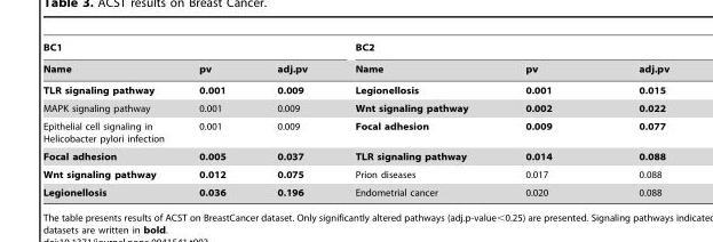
<table><thead><tr><td colspan="3">BC1</td><td colspan="3">BC2</td></tr><tr><td>Name</td><td>pv</td><td>adj.pv</td><td>Name</td><td>pv</td><td>adj.pv</td></tr></thead><tbody><tr><td>TLR signaling pathway</td><td>0.001</td><td>0.009</td><td>Legionellosis</td><td>0.001</td><td>0.015</td></tr><tr><td>MAPK signaling pathway</td><td>0.001</td><td>0.009</td><td>Wnt signaling pathway</td><td>0.002</td><td>0.022</td></tr><tr><td>Epithelial cell signaling in Helicobacter pylori infection</td><td>0.001</td><td>0.009</td><td>Focal adhesion</td><td>0.009</td><td>0.077</td></tr><tr><td>Focal adhesion</td><td>0.005</td><td>0.037</td><td>TLR signaling pathway</td><td>0.014</td><td>0.088</td></tr><tr><td>Wnt signaling pathway</td><td>0.012</td><td>0.075</td><td>Prion diseases</td><td>0.017</td><td>0.088</td></tr><tr><td>Legionellosis</td><td>0.036</td><td>0.196</td><td>Endometrial cancer</td><td>0.020</td><td>0.088</td></tr></tbody></table>